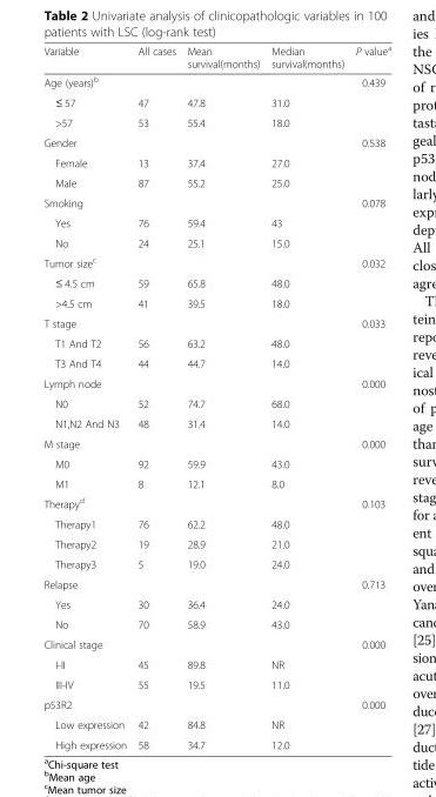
<table><thead><tr><td>Variable</td><td>All cases</td><td>Mean survival(months)</td><td>Median survival(months)</td><td>P value<sup>a</sup></td></tr></thead><tbody><tr><td>Age (years)<sup>b</sup></td><td></td><td></td><td></td><td>0.439</td></tr><tr><td>≤ 57</td><td>47</td><td>47.8</td><td>31.0</td><td></td></tr><tr><td>&gt;57</td><td>53</td><td>55.4</td><td>18.0</td><td></td></tr><tr><td>Gender</td><td></td><td></td><td></td><td>0.538</td></tr><tr><td>Female</td><td>13</td><td>37.4</td><td>27.0</td><td></td></tr><tr><td>Male</td><td>87</td><td>55.2</td><td>25.0</td><td></td></tr><tr><td>Smoking</td><td></td><td></td><td></td><td>0.078</td></tr><tr><td>Yes</td><td>76</td><td>59.4</td><td>43</td><td></td></tr><tr><td>No</td><td>24</td><td>25.1</td><td>15.0</td><td></td></tr><tr><td>Tumor size<sup>c</sup></td><td></td><td></td><td></td><td>0.032</td></tr><tr><td>≤ 4.5 cm</td><td>59</td><td>65.8</td><td>48.0</td><td></td></tr><tr><td>&gt;4.5 cm</td><td>41</td><td>39.5</td><td>18.0</td><td></td></tr><tr><td>T stage</td><td></td><td></td><td></td><td>0.033</td></tr><tr><td>T1 And T2</td><td>56</td><td>63.2</td><td>48.0</td><td></td></tr><tr><td>T3 And T4</td><td>44</td><td>44.7</td><td>14.0</td><td></td></tr><tr><td>Lymph node</td><td></td><td></td><td></td><td>0.000</td></tr><tr><td>N0</td><td>52</td><td>74.7</td><td>68.0</td><td></td></tr><tr><td>N1,N2 And N3</td><td>48</td><td>31.4</td><td>14.0</td><td></td></tr><tr><td>M stage</td><td></td><td></td><td></td><td>0.000</td></tr><tr><td>M0</td><td>92</td><td>59.9</td><td>43.0</td><td></td></tr><tr><td>M1</td><td>8</td><td>12.1</td><td>8.0</td><td></td></tr><tr><td>Therapy<sup>d</sup></td><td></td><td></td><td></td><td>0.103</td></tr><tr><td>Therapy1</td><td>76</td><td>62.2</td><td>48.0</td><td></td></tr><tr><td>Therapy2</td><td>19</td><td>28.9</td><td>21.0</td><td></td></tr><tr><td>Therapy3</td><td>5</td><td>19.0</td><td>24.0</td><td></td></tr><tr><td>Relapse</td><td></td><td></td><td></td><td>0.713</td></tr><tr><td>Yes</td><td>30</td><td>36.4</td><td>24.0</td><td></td></tr><tr><td>No</td><td>70</td><td>58.9</td><td>43.0</td><td></td></tr><tr><td>Clinical stage</td><td></td><td></td><td></td><td>0.000</td></tr><tr><td>I-II</td><td>45</td><td>89.8</td><td>NR</td><td></td></tr><tr><td>III-IV</td><td>55</td><td>19.5</td><td>11.0</td><td></td></tr><tr><td>p53R2</td><td></td><td></td><td></td><td>0.000</td></tr><tr><td>Low expression</td><td>42</td><td>84.8</td><td>NR</td><td></td></tr><tr><td>High expression</td><td>58</td><td>34.7</td><td>12.0</td><td></td></tr></tbody></table>